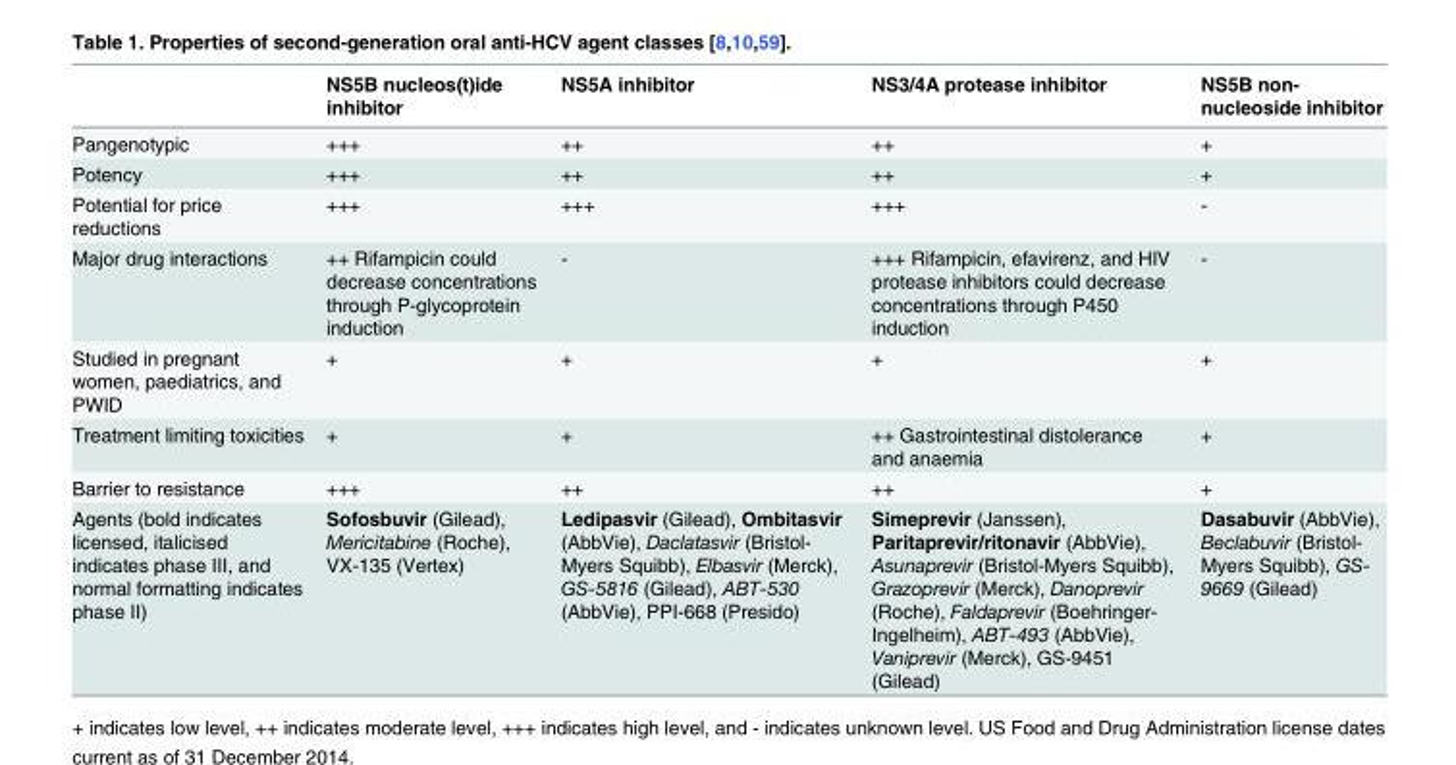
<table><thead><tr><td></td><td>NS5B nucleos(t)ide inhibitor</td><td>NS5A inhibitor</td><td>NS3/4A protease inhibitor</td><td>NS5B non- nucleoside inhibitor</td></tr></thead><tbody><tr><td>Pangenotypic</td><td>+++</td><td>++</td><td>++</td><td>+</td></tr><tr><td>Potency</td><td>+++</td><td>++</td><td>++</td><td>+</td></tr><tr><td>Potential for price reductions</td><td>+++</td><td>+++</td><td>+++</td><td>-</td></tr><tr><td>Major drug interactions</td><td>++ Rifampicin could decrease concentrations through P-glycoprotein induction</td><td>-</td><td>+++ Rifampicin, efavirenz, and HIV protease inhibitors could decrease concentrations through P450 induction</td><td>-</td></tr><tr><td>Studied in pregnant women, paediatrics, and PWID</td><td>+</td><td>+</td><td>+</td><td>+</td></tr><tr><td>Treatment limiting toxicities</td><td>+</td><td>+</td><td>++ Gastrointestinal distolerance and anaemia</td><td>+</td></tr><tr><td>Barrier to resistance</td><td>+++</td><td>++</td><td>++</td><td>+</td></tr><tr><td>Agents (bold indicates licensed, italicised indicates phase III, and normal formatting indicates phase II)</td><td>Sofosbuvir (Gilead), Mericitabine (Roche), VX-135 (Vertex)</td><td>Ledipasvir (Gilead), Ombitasvir (AbbVie), Daclatasvir (Bristol- Myers Squibb), Elbasvir (Merck), GS-5816 (Gilead), ABT-530 (AbbVie), PPI-668 (Presido)</td><td>Simeprevir (Janssen), Paritaprevir/ritonavir (AbbVie), Asunaprevir (Bristol-Myers Squibb), Grazoprevir (Merck), Danoprevir (Roche), Faldaprevir (Boehringer- Ingelheim), ABT-493 (AbbVie), Vaniprevir (Merck), GS-9451 (Gilead)</td><td>Dasabuvir (AbbVie), Beclabuvir (Bristol- Myers Squibb), GS- 9669 (Gilead)</td></tr></tbody></table>